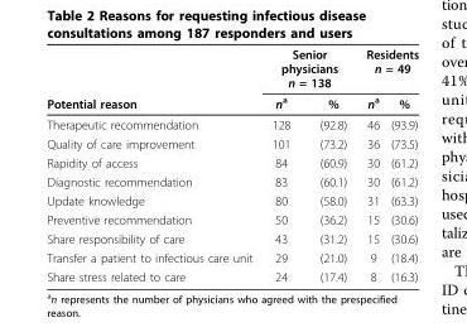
<table><thead><tr><td rowspan="2">Potential reason</td><td colspan="2">Senior physicians n = 138</td><td colspan="2">Residents n = 49</td></tr><tr><td>n<sup>a</sup></td><td>%</td><td>n<sup>a</sup></td><td>%</td></tr></thead><tbody><tr><td>Therapeutic recommendation</td><td>128</td><td>(92.8)</td><td>46</td><td>(93.9)</td></tr><tr><td>Quality of care improvement</td><td>101</td><td>(73.2)</td><td>36</td><td>(73.5)</td></tr><tr><td>Rapidity of access</td><td>84</td><td>(60.9)</td><td>30</td><td>(61.2)</td></tr><tr><td>Diagnostic recommendation</td><td>83</td><td>(60.1)</td><td>30</td><td>(61.2)</td></tr><tr><td>Update knowledge</td><td>80</td><td>(58.0)</td><td>31</td><td>(63.3)</td></tr><tr><td>Preventive recommendation</td><td>50</td><td>(36.2)</td><td>15</td><td>(30.6)</td></tr><tr><td>Share responsibility of care</td><td>43</td><td>(31.2)</td><td>15</td><td>(30.6)</td></tr><tr><td>Transfer a patient to infectious care unit</td><td>29</td><td>(21.0)</td><td>9</td><td>(18.4)</td></tr><tr><td>Share stress related to care</td><td>24</td><td>(17.4)</td><td>8</td><td>(16.3)</td></tr></tbody></table>